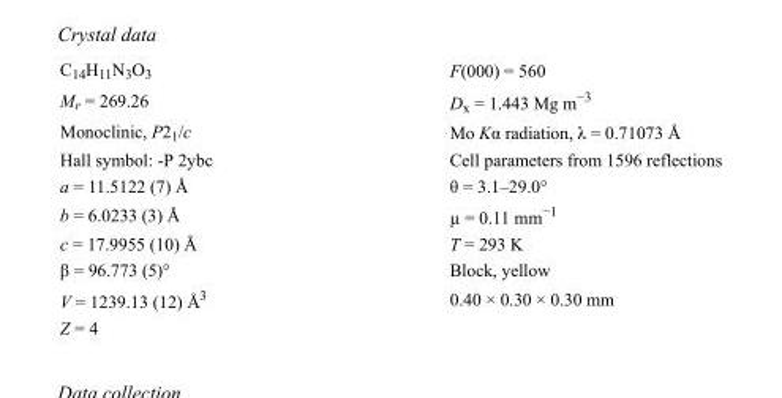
<table><tbody><tr><td>C<sub>14</sub>H<sub>11</sub>N<sub>3</sub>O<sub>3</sub></td><td>F(000) = 560</td></tr><tr><td>M<sub>r</sub> = 269.26</td><td>D<sub>x</sub> = 1.443 Mg m<sup>−3</sup></td></tr><tr><td>Monoclinic, P2<sub>1</sub>/c</td><td>Mo Kα radiation, λ = 0.71073 Å</td></tr><tr><td>Hall symbol: -P 2ybc</td><td>Cell parameters from 1596 reflections</td></tr><tr><td>a = 11.5122 (7) Å</td><td>θ = 3.1–29.0°</td></tr><tr><td>b = 6.0233 (3) Å</td><td>µ = 0.11 mm<sup>−1</sup></td></tr><tr><td>c = 17.9955 (10) Å</td><td>T = 293 K</td></tr><tr><td>β = 96.773 (5)°</td><td>Block, yellow</td></tr><tr><td>V = 1239.13 (12) Å<sup>3</sup></td><td>0.40 × 0.30 × 0.30 mm</td></tr><tr><td>Z = 4</td><td></td></tr></tbody></table>